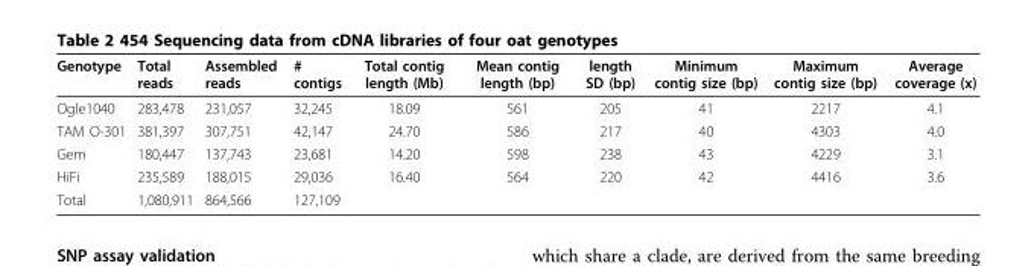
<table><thead><tr><td>Genotype</td><td>Total reads</td><td>Assembled reads</td><td># contigs</td><td>Total contig length (Mb)</td><td>Mean contig length (bp)</td><td>length SD (bp)</td><td>Minimum contig size (bp)</td><td>Maximum contig size (bp)</td><td>Average coverage (x)</td></tr></thead><tbody><tr><td>Ogle1040</td><td>283,478</td><td>231,057</td><td>32,245</td><td>18.09</td><td>561</td><td>205</td><td>41</td><td>2217</td><td>4.1</td></tr><tr><td>TAM O-301</td><td>381,397</td><td>307,751</td><td>42,147</td><td>24.70</td><td>586</td><td>217</td><td>40</td><td>4303</td><td>4.0</td></tr><tr><td>Gem</td><td>180,447</td><td>137,743</td><td>23,681</td><td>14.20</td><td>598</td><td>238</td><td>43</td><td>4229</td><td>3.1</td></tr><tr><td>HiFi</td><td>235,589</td><td>188,015</td><td>29,036</td><td>16.40</td><td>564</td><td>220</td><td>42</td><td>4416</td><td>3.6</td></tr><tr><td>Total</td><td>1,080,911</td><td>864,566</td><td>127,109</td><td></td><td></td><td></td><td></td><td></td><td></td></tr></tbody></table>